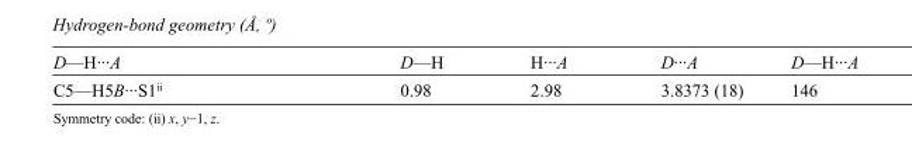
<table><tbody><tr><td>D—H···A</td><td>D—H</td><td>H···A</td><td>D···A</td><td>D—H···A</td></tr><tr><td>C5—H5B···S1<sup>ii</sup></td><td>0.98</td><td>2.98</td><td>3.8373 (18)</td><td>146</td></tr></tbody></table>